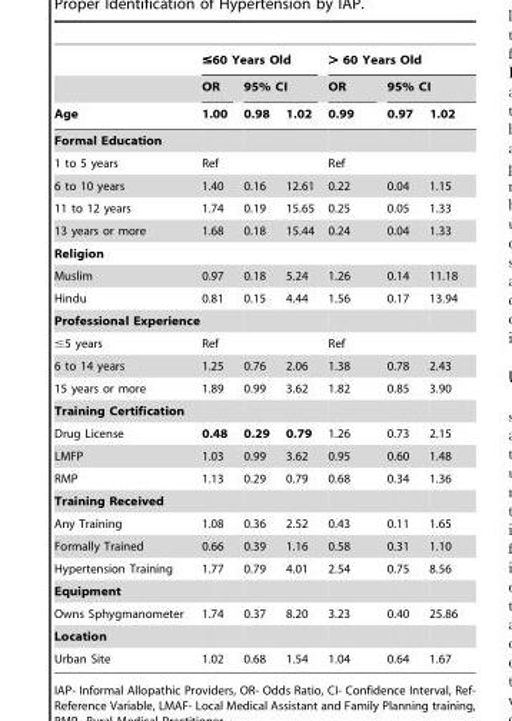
<table><thead><tr><td rowspan="3">Age</td><td colspan="3">≤60 Years Old</td><td colspan="3">&gt; 60 Years Old</td></tr><tr><td rowspan="2">OR 1.00</td><td colspan="2">95% CI</td><td rowspan="2">OR 0.99</td><td colspan="2">95% CI</td></tr><tr><td>0.98</td><td>1.02</td><td>0.97</td><td>1.02</td></tr></thead><tbody><tr><td colspan="7">Formal Education</td></tr><tr><td>1 to 5 years</td><td>Ref</td><td></td><td></td><td>Ref</td><td></td><td></td></tr><tr><td>6 to 10 years</td><td>1.40</td><td>0.16</td><td>12.61</td><td>0.22</td><td>0.04</td><td>1.15</td></tr><tr><td>11 to 12 years</td><td>1.74</td><td>0.19</td><td>15.65</td><td>0.25</td><td>0.05</td><td>1.33</td></tr><tr><td>13 years or more</td><td>1.68</td><td>0.18</td><td>15.44</td><td>0.24</td><td>0.04</td><td>1.33</td></tr><tr><td colspan="7">Religion</td></tr><tr><td>Muslim</td><td>0.97</td><td>0.18</td><td>5.24</td><td>1.26</td><td>0.14</td><td>11.18</td></tr><tr><td>Hindu</td><td>0.81</td><td>0.15</td><td>4.44</td><td>1.56</td><td>0.17</td><td>13.94</td></tr><tr><td colspan="7">Professional Experience</td></tr><tr><td>≤5 years</td><td>Ref</td><td></td><td></td><td>Ref</td><td></td><td></td></tr><tr><td>6 to 14 years</td><td>1.25</td><td>0.76</td><td>2.06</td><td>1.38</td><td>0.78</td><td>2.43</td></tr><tr><td>15 years or more</td><td>1.89</td><td>0.99</td><td>3.62</td><td>1.82</td><td>0.85</td><td>3.90</td></tr><tr><td colspan="7">Training Certification</td></tr><tr><td>Drug License</td><td>0.48</td><td>0.29</td><td>0.79</td><td>1.26</td><td>0.73</td><td>2.15</td></tr><tr><td>LMFP</td><td>1.03</td><td>0.99</td><td>3.62</td><td>0.95</td><td>0.60</td><td>1.48</td></tr><tr><td>RMP</td><td>1.13</td><td>0.29</td><td>0.79</td><td>0.68</td><td>0.34</td><td>1.36</td></tr><tr><td colspan="7">Training Received</td></tr><tr><td>Any Training</td><td>1.08</td><td>0.36</td><td>2.52</td><td>0.43</td><td>0.11</td><td>1.65</td></tr><tr><td>Formally Trained</td><td>0.66</td><td>0.39</td><td>1.16</td><td>0.58</td><td>0.31</td><td>1.10</td></tr><tr><td>Hypertension Training</td><td>1.77</td><td>0.79</td><td>4.01</td><td>2.54</td><td>0.75</td><td>8.56</td></tr><tr><td colspan="7">Equipment</td></tr><tr><td>Owns Sphygmanometer</td><td>1.74</td><td>0.37</td><td>8.20</td><td>3.23</td><td>0.40</td><td>25.86</td></tr><tr><td colspan="7">Location</td></tr><tr><td>Urban Site</td><td>1.02</td><td>0.68</td><td>1.54</td><td>1.04</td><td>0.64</td><td>1.67</td></tr></tbody></table>